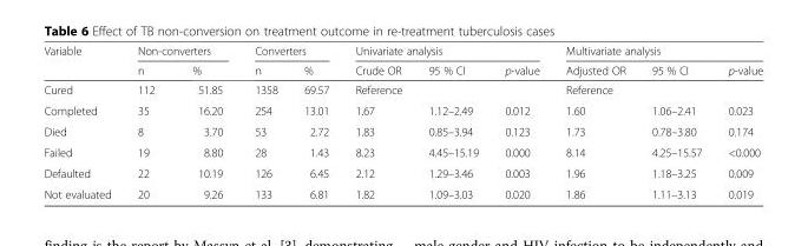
<table><thead><tr><td rowspan="2">Variable</td><td colspan="2">Non-converters</td><td colspan="2">Converters</td><td colspan="3">Univariate analysis</td><td colspan="3">Multivariate analysis</td></tr><tr><td>n</td><td>%</td><td>n</td><td>%</td><td>Crude OR</td><td>95 % CI</td><td>p-value</td><td>Adjusted OR</td><td>95 % CI</td><td>p-value</td></tr></thead><tbody><tr><td>Cured</td><td>112</td><td>51.85</td><td>1358</td><td>69.57</td><td>Reference</td><td></td><td></td><td>Reference</td><td></td><td></td></tr><tr><td>Completed</td><td>35</td><td>16.20</td><td>254</td><td>13.01</td><td>1.67</td><td>1.12–2.49</td><td>0.012</td><td>1.60</td><td>1.06–2.41</td><td>0.023</td></tr><tr><td>Died</td><td>8</td><td>3.70</td><td>53</td><td>2.72</td><td>1.83</td><td>0.85–3.94</td><td>0.123</td><td>1.73</td><td>0.78–3.80</td><td>0.174</td></tr><tr><td>Failed</td><td>19</td><td>8.80</td><td>28</td><td>1.43</td><td>8.23</td><td>4.45–15.19</td><td>0.000</td><td>8.14</td><td>4.25–15.57</td><td>&lt;0.000</td></tr><tr><td>Defaulted</td><td>22</td><td>10.19</td><td>126</td><td>6.45</td><td>2.12</td><td>1.29–3.46</td><td>0.003</td><td>1.96</td><td>1.18–3.25</td><td>0.009</td></tr><tr><td>Not evaluated</td><td>20</td><td>9.26</td><td>133</td><td>6.81</td><td>1.82</td><td>1.09–3.03</td><td>0.020</td><td>1.86</td><td>1.11–3.13</td><td>0.019</td></tr></tbody></table>